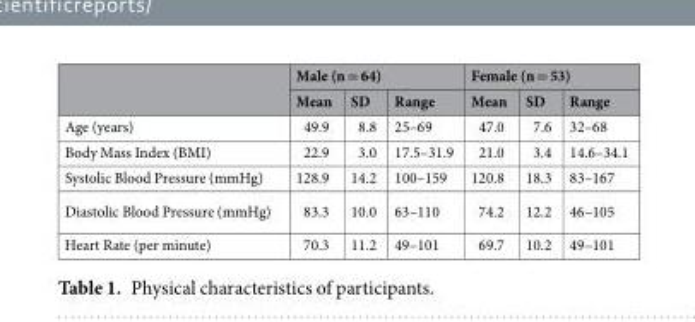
<table><thead><tr><td rowspan="2"></td><td colspan="3">Male (n = 64)</td><td colspan="3">Female (n = 53)</td></tr><tr><td>Mean</td><td>SD</td><td>Range</td><td>Mean</td><td>SD</td><td>Range</td></tr></thead><tbody><tr><td>Age (years)</td><td>49.9</td><td>8.8</td><td>25–69</td><td>47.0</td><td>7.6</td><td>32–68</td></tr><tr><td>Body Mass Index (BMI)</td><td>22.9</td><td>3.0</td><td>17.5–31.9</td><td>21.0</td><td>3.4</td><td>14.6–34.1</td></tr><tr><td>Systolic Blood Pressure (mmHg)</td><td>128.9</td><td>14.2</td><td>100–159</td><td>120.8</td><td>18.3</td><td>83–167</td></tr><tr><td>Diastolic Blood Pressure (mmHg)</td><td>83.3</td><td>10.0</td><td>63–110</td><td>74.2</td><td>12.2</td><td>46–105</td></tr><tr><td>Heart Rate (per minute)</td><td>70.3</td><td>11.2</td><td>49–101</td><td>69.7</td><td>10.2</td><td>49–101</td></tr></tbody></table>